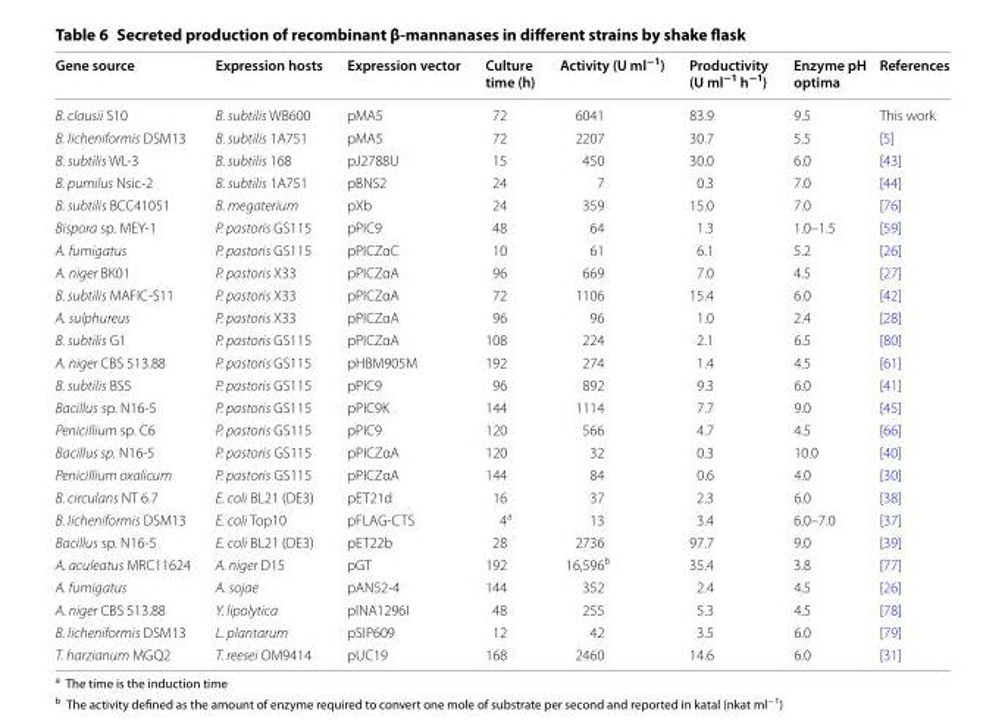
<table><thead><tr><td>Gene source</td><td>Expression hosts</td><td>Expression vector</td><td>Culture time (h)</td><td>Activity (U ml<sup>−1</sup>)</td><td>Productivity (U ml<sup>−1</sup> h<sup>−1</sup>)</td><td>Enzyme pH optima</td><td>References</td></tr></thead><tbody><tr><td>B. clausii S10</td><td>B. subtilis WB600</td><td>pMA5</td><td>72</td><td>6041</td><td>83.9</td><td>9.5</td><td>This work</td></tr><tr><td>B. licheniformis DSM13</td><td>B. subtilis 1A751</td><td>pMA5</td><td>72</td><td>2207</td><td>30.7</td><td>5.5</td><td>[5]</td></tr><tr><td>B. subtilis WL-3</td><td>B. subtilis 168</td><td>pJ2788U</td><td>15</td><td>450</td><td>30.0</td><td>6.0</td><td>[43]</td></tr><tr><td>B. pumilus Nsic-2</td><td>B. subtilis 1A751</td><td>pBNS2</td><td>24</td><td>7</td><td>0.3</td><td>7.0</td><td>[44]</td></tr><tr><td>B. subtilis BCC41051</td><td>B. megaterium</td><td>pXb</td><td>24</td><td>359</td><td>15.0</td><td>7.0</td><td>[76]</td></tr><tr><td>Bispora sp. MEY-1</td><td>P. pastoris GS115</td><td>pPIC9</td><td>48</td><td>64</td><td>1.3</td><td>1.0–1.5</td><td>[59]</td></tr><tr><td>A. fumigatus</td><td>P. pastoris GS115</td><td>pPICZαC</td><td>10</td><td>61</td><td>6.1</td><td>5.2</td><td>[26]</td></tr><tr><td>A. niger BK01</td><td>P. pastoris X33</td><td>pPICZαA</td><td>96</td><td>669</td><td>7.0</td><td>4.5</td><td>[27]</td></tr><tr><td>B. subtilis MAFIC-S11</td><td>P. pastoris X33</td><td>pPICZαA</td><td>72</td><td>1106</td><td>15.4</td><td>6.0</td><td>[42]</td></tr><tr><td>A. sulphureus</td><td>P. pastoris X33</td><td>pPICZαA</td><td>96</td><td>96</td><td>1.0</td><td>2.4</td><td>[28]</td></tr><tr><td>B. subtilis G1</td><td>P. pastoris GS115</td><td>pPICZαA</td><td>108</td><td>224</td><td>2.1</td><td>6.5</td><td>[80]</td></tr><tr><td>A. niger CBS 513.88</td><td>P. pastoris GS115</td><td>pHBM905M</td><td>192</td><td>274</td><td>1.4</td><td>4.5</td><td>[61]</td></tr><tr><td>B. subtilis BS5</td><td>P. pastoris GS115</td><td>pPIC9</td><td>96</td><td>892</td><td>9.3</td><td>6.0</td><td>[41]</td></tr><tr><td>Bacillus sp. N16-5</td><td>P. pastoris GS115</td><td>pPIC9K</td><td>144</td><td>1114</td><td>7.7</td><td>9.0</td><td>[45]</td></tr><tr><td>Penicillium sp. C6</td><td>P. pastoris GS115</td><td>pPIC9</td><td>120</td><td>566</td><td>4.7</td><td>4.5</td><td>[66]</td></tr><tr><td>Bacillus sp. N16-5</td><td>P. pastoris GS115</td><td>pPICZαA</td><td>120</td><td>32</td><td>0.3</td><td>10.0</td><td>[40]</td></tr><tr><td>Penicillium oxalicum</td><td>P. pastoris GS115</td><td>pPICZαA</td><td>144</td><td>84</td><td>0.6</td><td>4.0</td><td>[30]</td></tr><tr><td>B. circulans NT 6.7</td><td>E. coli BL21 (DE3)</td><td>pET21d</td><td>16</td><td>37</td><td>2.3</td><td>6.0</td><td>[38]</td></tr><tr><td>B. licheniformis DSM13</td><td>E. coli Top10</td><td>pFLAG-CTS</td><td>4<sup>a</sup></td><td>13</td><td>3.4</td><td>6.0–7.0</td><td>[37]</td></tr><tr><td>Bacillus sp. N16-5</td><td>E. coli BL21 (DE3)</td><td>pET22b</td><td>28</td><td>2736</td><td>97.7</td><td>9.0</td><td>[39]</td></tr><tr><td>A. aculeatus MRC11624</td><td>A. niger D15</td><td>pGT</td><td>192</td><td>16,596<sup>b</sup></td><td>35.4</td><td>3.8</td><td>[77]</td></tr><tr><td>A. fumigatus</td><td>A. sojae</td><td>pAN52-4</td><td>144</td><td>352</td><td>2.4</td><td>4.5</td><td>[26]</td></tr><tr><td>A. niger CBS 513.88</td><td>Y. lipolytica</td><td>pINA1296I</td><td>48</td><td>255</td><td>5.3</td><td>4.5</td><td>[78]</td></tr><tr><td>B. licheniformis DSM13</td><td>L. plantarum</td><td>pSIP609</td><td>12</td><td>42</td><td>3.5</td><td>6.0</td><td>[79]</td></tr><tr><td>T. harzianum MGQ2</td><td>T. reesei OM9414</td><td>pUC19</td><td>168</td><td>2460</td><td>14.6</td><td>6.0</td><td>[31]</td></tr></tbody></table>